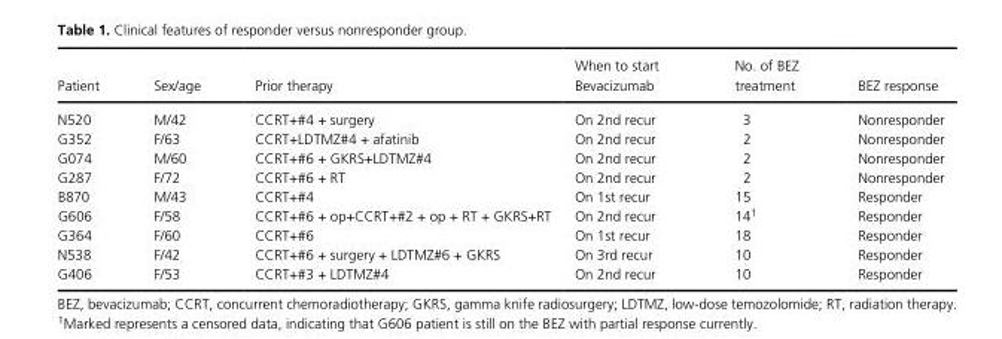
<table><thead><tr><td>Patient</td><td>Sex/age</td><td>Prior therapy</td><td>When to start Bevacizumab</td><td>No. of BEZ treatment</td><td>BEZ response</td></tr></thead><tbody><tr><td>N520</td><td>M/42</td><td>CCRT+#4 + surgery</td><td>On 2nd recur</td><td>3</td><td>Nonresponder</td></tr><tr><td>G352</td><td>F/63</td><td>CCRT+LDTMZ#4 + afatinib</td><td>On 2nd recur</td><td>2</td><td>Nonresponder</td></tr><tr><td>G074</td><td>M/60</td><td>CCRT+#6 + GKRS+LDTMZ#4</td><td>On 2nd recur</td><td>2</td><td>Nonresponder</td></tr><tr><td>G287</td><td>F/72</td><td>CCRT+#6 + RT</td><td>On 2nd recur</td><td>2</td><td>Nonresponder</td></tr><tr><td>B870</td><td>M/43</td><td>CCRT+#4</td><td>On 1st recur</td><td>15</td><td>Responder</td></tr><tr><td>G606</td><td>F/58</td><td>CCRT+#6 + op+CCRT+#2 + op + RT + GKRS+RT</td><td>On 2nd recur</td><td>141</td><td>Responder</td></tr><tr><td>G364</td><td>F/60</td><td>CCRT+#6</td><td>On 1st recur</td><td>18</td><td>Responder</td></tr><tr><td>N538</td><td>F/42</td><td>CCRT+#6 + surgery + LDTMZ#6 + GKRS</td><td>On 3rd recur</td><td>10</td><td>Responder</td></tr><tr><td>G406</td><td>F/53</td><td>CCRT+#3 + LDTMZ#4</td><td>On 2nd recur</td><td>10</td><td>Responder</td></tr></tbody></table>